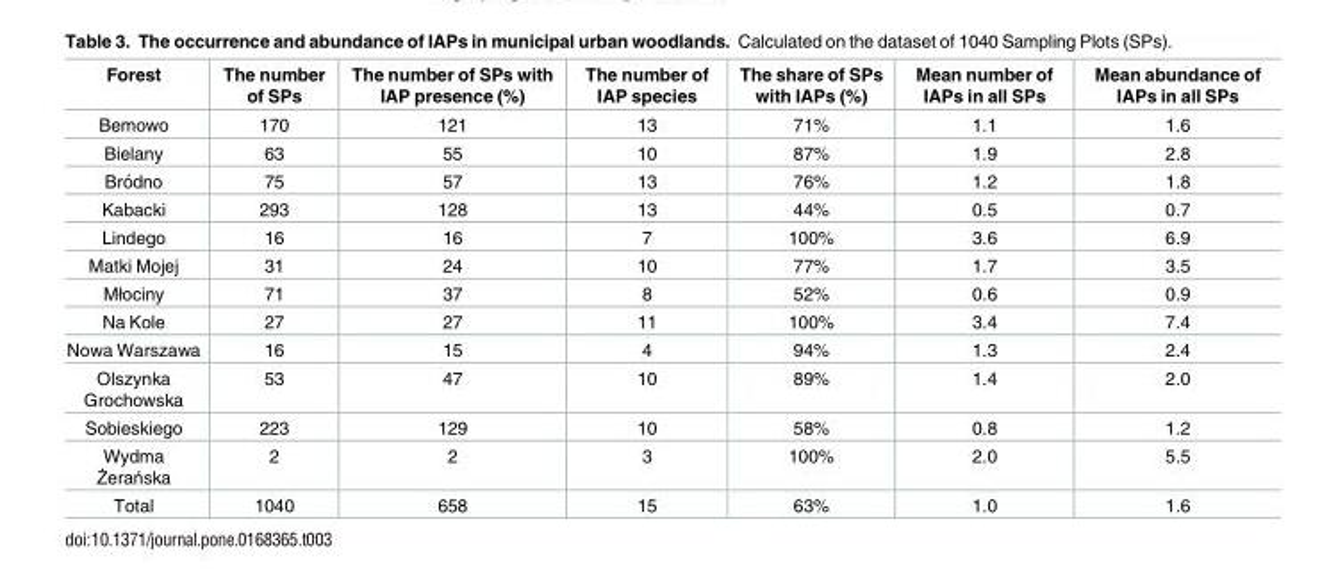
<table><thead><tr><td>Forest</td><td>The number of SPs</td><td>The number of SPs with IAP presence (%)</td><td>The number of IAP species</td><td>The share of SPs with IAPs (%)</td><td>Mean number of IAPs in all SPs</td><td>Mean abundance of IAPs in all SPs</td></tr></thead><tbody><tr><td>Bemowo</td><td>170</td><td>121</td><td>13</td><td>71%</td><td>1.1</td><td>1.6</td></tr><tr><td>Bielany</td><td>63</td><td>55</td><td>10</td><td>87%</td><td>1.9</td><td>2.8</td></tr><tr><td>Bro´dno</td><td>75</td><td>57</td><td>13</td><td>76%</td><td>1.2</td><td>1.8</td></tr><tr><td>Kabacki</td><td>293</td><td>128</td><td>13</td><td>44%</td><td>0.5</td><td>0.7</td></tr><tr><td>Lindego</td><td>16</td><td>16</td><td>7</td><td>100%</td><td>3.6</td><td>6.9</td></tr><tr><td>Matki Mojej</td><td>31</td><td>24</td><td>10</td><td>77%</td><td>1.7</td><td>3.5</td></tr><tr><td>Młociny</td><td>71</td><td>37</td><td>8</td><td>52%</td><td>0.6</td><td>0.9</td></tr><tr><td>Na Kole</td><td>27</td><td>27</td><td>11</td><td>100%</td><td>3.4</td><td>7.4</td></tr><tr><td>Nowa Warszawa</td><td>16</td><td>15</td><td>4</td><td>94%</td><td>1.3</td><td>2.4</td></tr><tr><td>Olszynka Grochowska</td><td>53</td><td>47</td><td>10</td><td>89%</td><td>1.4</td><td>2.0</td></tr><tr><td>Sobieskiego</td><td>223</td><td>129</td><td>10</td><td>58%</td><td>0.8</td><td>1.2</td></tr><tr><td>Wydma Żerańska</td><td>2</td><td>2</td><td>3</td><td>100%</td><td>2.0</td><td>5.5</td></tr><tr><td>Total</td><td>1040</td><td>658</td><td>15</td><td>63%</td><td>1.0</td><td>1.6</td></tr></tbody></table>